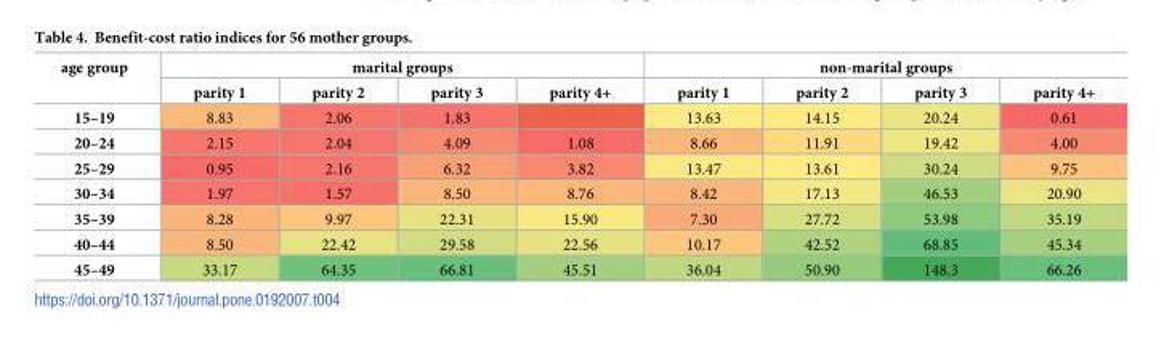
<table><thead><tr><td rowspan="2">age group</td><td colspan="4">marital groups</td><td colspan="4">non-marital groups</td></tr><tr><td>parity 1</td><td>parity 2</td><td>parity 3</td><td>parity 4+</td><td>parity 1</td><td>parity 2</td><td>parity 3</td><td>parity 4+</td></tr></thead><tbody><tr><td>15–19</td><td>8.83</td><td>2.06</td><td>1.83</td><td></td><td>13.63</td><td>14.15</td><td>20.24</td><td>0.61</td></tr><tr><td>20–24</td><td>2.15</td><td>2.04</td><td>4.09</td><td>1.08</td><td>8.66</td><td>11.91</td><td>19.42</td><td>4.00</td></tr><tr><td>25–29</td><td>0.95</td><td>2.16</td><td>6.32</td><td>3.82</td><td>13.47</td><td>13.61</td><td>30.24</td><td>9.75</td></tr><tr><td>30–34</td><td>1.97</td><td>1.57</td><td>8.50</td><td>8.76</td><td>8.42</td><td>17.13</td><td>46.53</td><td>20.90</td></tr><tr><td>35–39</td><td>8.28</td><td>9.97</td><td>22.31</td><td>15.90</td><td>7.30</td><td>27.72</td><td>53.98</td><td>35.19</td></tr><tr><td>40–44</td><td>8.50</td><td>22.42</td><td>29.58</td><td>22.56</td><td>10.17</td><td>42.52</td><td>68.85</td><td>45.34</td></tr><tr><td>45–49</td><td>33.17</td><td>64.35</td><td>66.81</td><td>45.51</td><td>36.04</td><td>50.90</td><td>148.3</td><td>66.26</td></tr></tbody></table>